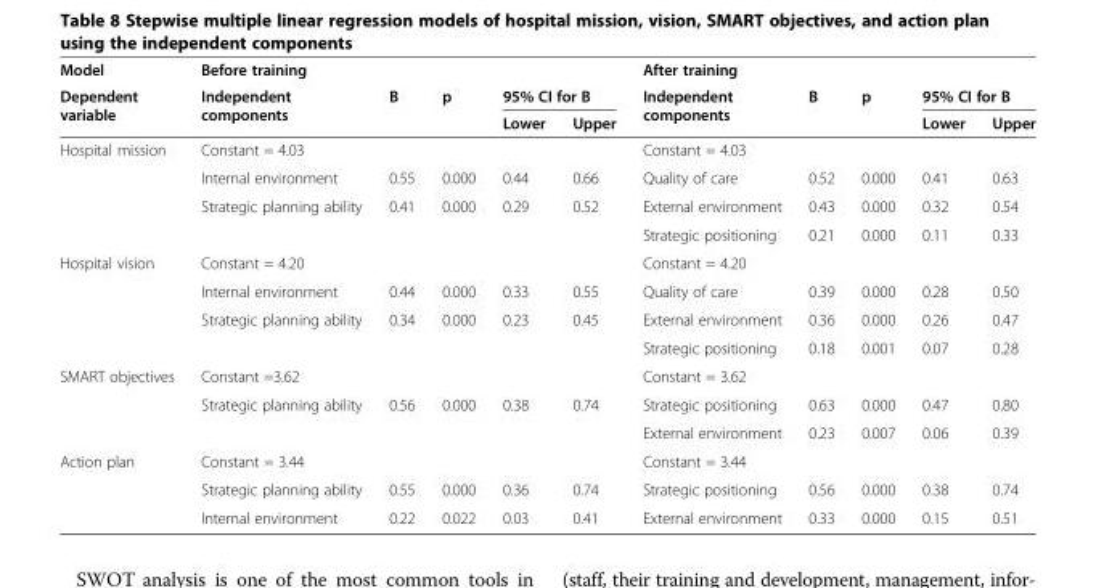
<table><thead><tr><td rowspan="3">Model Dependent variable</td><td colspan="5">Before training</td><td colspan="5">After training</td></tr><tr><td rowspan="2">Independent components</td><td rowspan="2">B</td><td rowspan="2">p</td><td colspan="2">95% CI for B</td><td rowspan="2">Independent components</td><td rowspan="2">B</td><td rowspan="2">p</td><td colspan="2">95% CI for B</td></tr><tr><td>Lower</td><td>Upper</td><td>Lower</td><td>Upper</td></tr></thead><tbody><tr><td rowspan="4">Hospital mission</td><td>Constant = 4.03</td><td></td><td></td><td></td><td></td><td>Constant = 4.03</td><td></td><td></td><td></td><td></td></tr><tr><td>Internal environment</td><td>0.55</td><td>0.000</td><td>0.44</td><td>0.66</td><td>Quality of care</td><td>0.52</td><td>0.000</td><td>0.41</td><td>0.63</td></tr><tr><td>Strategic planning ability</td><td>0.41</td><td>0.000</td><td>0.29</td><td>0.52</td><td>External environment</td><td>0.43</td><td>0.000</td><td>0.32</td><td>0.54</td></tr><tr><td></td><td></td><td></td><td></td><td></td><td>Strategic positioning</td><td>0.21</td><td>0.000</td><td>0.11</td><td>0.33</td></tr><tr><td rowspan="4">Hospital vision</td><td>Constant = 4.20</td><td></td><td></td><td></td><td></td><td>Constant = 4.20</td><td></td><td></td><td></td><td></td></tr><tr><td>Internal environment</td><td>0.44</td><td>0.000</td><td>0.33</td><td>0.55</td><td>Quality of care</td><td>0.39</td><td>0.000</td><td>0.28</td><td>0.50</td></tr><tr><td rowspan="2">Strategic planning ability</td><td>0.34</td><td>0.000</td><td>0.23</td><td>0.45</td><td>External environment</td><td>0.36</td><td>0.000</td><td>0.26</td><td>0.47</td></tr><tr><td></td><td></td><td></td><td></td><td>Strategic positioning</td><td>0.18</td><td>0.001</td><td>0.07</td><td>0.28</td></tr><tr><td rowspan="3">SMART objectives</td><td>Constant =3.62</td><td></td><td></td><td></td><td></td><td>Constant = 3.62</td><td></td><td></td><td></td><td></td></tr><tr><td rowspan="2">Strategic planning ability</td><td rowspan="2">0.56</td><td rowspan="2">0.000</td><td rowspan="2">0.38</td><td rowspan="2">0.74</td><td>Strategic positioning</td><td>0.63</td><td>0.000</td><td>0.47</td><td>0.80</td></tr><tr><td>External environment</td><td>0.23</td><td>0.007</td><td>0.06</td><td>0.39</td></tr><tr><td rowspan="3">Action plan</td><td>Constant = 3.44</td><td></td><td></td><td></td><td></td><td>Constant = 3.44</td><td></td><td></td><td></td><td></td></tr><tr><td>Strategic planning ability</td><td>0.55</td><td>0.000</td><td>0.36</td><td>0.74</td><td>Strategic positioning</td><td>0.56</td><td>0.000</td><td>0.38</td><td>0.74</td></tr><tr><td>Internal environment</td><td>0.22</td><td>0.022</td><td>0.03</td><td>0.41</td><td>External environment</td><td>0.33</td><td>0.000</td><td>0.15</td><td>0.51</td></tr></tbody></table>